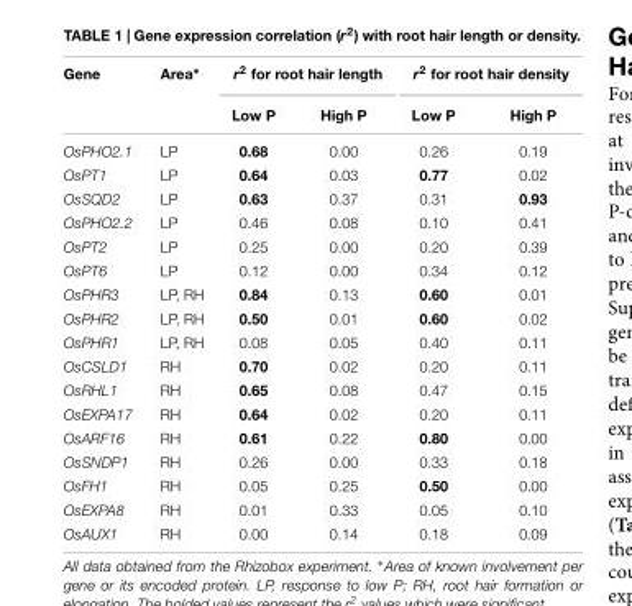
<table><thead><tr><td rowspan="2">Gene</td><td rowspan="2">Area∗</td><td colspan="2">r<sup>2</sup> for root hair length</td><td colspan="2">r<sup>2</sup> for root hair density</td></tr><tr><td>Low P</td><td>High P</td><td>Low P</td><td>High P</td></tr></thead><tbody><tr><td>OsPHO2.1</td><td>LP</td><td>0.68</td><td>0.00</td><td>0.26</td><td>0.19</td></tr><tr><td>OsPT1</td><td>LP</td><td>0.64</td><td>0.03</td><td>0.77</td><td>0.02</td></tr><tr><td>OsSQD2</td><td>LP</td><td>0.63</td><td>0.37</td><td>0.31</td><td>0.93</td></tr><tr><td>OsPHO2.2</td><td>LP</td><td>0.46</td><td>0.08</td><td>0.10</td><td>0.41</td></tr><tr><td>OsPT2</td><td>LP</td><td>0.25</td><td>0.00</td><td>0.20</td><td>0.39</td></tr><tr><td>OsPT6</td><td>LP</td><td>0.12</td><td>0.00</td><td>0.34</td><td>0.12</td></tr><tr><td>OsPHR3</td><td>LP, RH</td><td>0.84</td><td>0.13</td><td>0.60</td><td>0.01</td></tr><tr><td>OsPHR2</td><td>LP, RH</td><td>0.50</td><td>0.01</td><td>0.60</td><td>0.02</td></tr><tr><td>OsPHR1</td><td>LP, RH</td><td>0.08</td><td>0.05</td><td>0.40</td><td>0.11</td></tr><tr><td>OsCSLD1</td><td>RH</td><td>0.70</td><td>0.02</td><td>0.20</td><td>0.11</td></tr><tr><td>OsRHL1</td><td>RH</td><td>0.65</td><td>0.08</td><td>0.47</td><td>0.15</td></tr><tr><td>OsEXPA17</td><td>RH</td><td>0.64</td><td>0.02</td><td>0.20</td><td>0.11</td></tr><tr><td>OsARF16</td><td>RH</td><td>0.61</td><td>0.22</td><td>0.80</td><td>0.00</td></tr><tr><td>OsSNDP1</td><td>RH</td><td>0.26</td><td>0.00</td><td>0.33</td><td>0.18</td></tr><tr><td>OsFH1</td><td>RH</td><td>0.05</td><td>0.25</td><td>0.50</td><td>0.00</td></tr><tr><td>OsEXPA8</td><td>RH</td><td>0.01</td><td>0.33</td><td>0.05</td><td>0.10</td></tr><tr><td>OsAUX1</td><td>RH</td><td>0.00</td><td>0.14</td><td>0.18</td><td>0.09</td></tr></tbody></table>